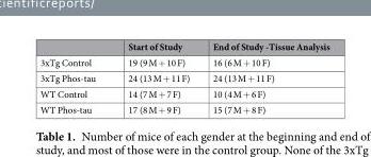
<table><thead><tr><td></td><td>Start of Study</td><td>End of Study -Tissue Analysis</td></tr></thead><tbody><tr><td>3xTg Control</td><td>19 (9 M + 10 F)</td><td>16 (6 M + 10 F)</td></tr><tr><td>3xTg Phos-tau</td><td>24 (13 M + 11 F)</td><td>24 (13 M + 11 F)</td></tr><tr><td>WT Control</td><td>14 (7 M + 7 F)</td><td>10 (4 M + 6 F)</td></tr><tr><td>WT Phos-tau</td><td>17 (8 M + 9 F)</td><td>15 (7 M + 8 F)</td></tr></tbody></table>